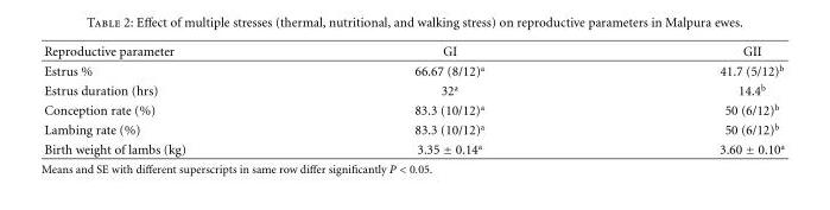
<table><thead><tr><td>Reproductive parameter</td><td>GI</td><td>GII</td></tr></thead><tbody><tr><td>Estrus %</td><td>66.67 (8/12)<sup>a</sup></td><td>41.7 (5/12)<sup>b</sup></td></tr><tr><td>Estrus duration (hrs)</td><td>32<sup>a</sup></td><td>14.4<sup>b</sup></td></tr><tr><td>Conception rate (%)</td><td>83.3 (10/12)<sup>a</sup></td><td>50 (6/12)<sup>b</sup></td></tr><tr><td>Lambing rate (%)</td><td>83.3 (10/12)<sup>a</sup></td><td>50 (6/12)<sup>b</sup></td></tr><tr><td>Birth weight of lambs (kg)</td><td>3.35 ± 0.14<sup>a</sup></td><td>3.60 ± 0.10<sup>a</sup></td></tr></tbody></table>